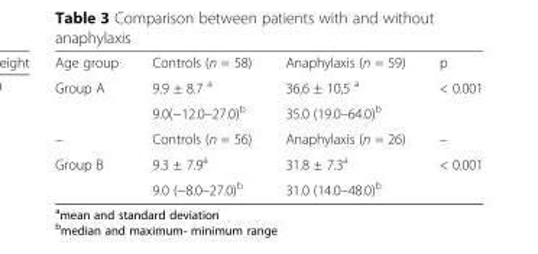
<table><tbody><tr><td>Age group</td><td>Controls (n = 58)</td><td>Anaphylaxis (n = 59)</td><td>p</td></tr><tr><td rowspan="2">Group A</td><td>9.9 ± 8.7 <sup>a</sup></td><td>36,6 ± 10,5 <sup>a</sup></td><td rowspan="2">&lt; 0.001</td></tr><tr><td>9.0(−12.0–27.0)<sup>b</sup></td><td>35.0 (19.0–64.0)<sup>b</sup></td></tr><tr><td>–</td><td>Controls (n = 56)</td><td>Anaphylaxis (n = 26)</td><td>–</td></tr><tr><td rowspan="2">Group B</td><td>9.3 ± 7.9<sup>a</sup></td><td>31.8 ± 7.3<sup>a</sup></td><td rowspan="2">&lt; 0.001</td></tr><tr><td>9.0 (−8.0–27.0)<sup>b</sup></td><td>31.0 (14.0–48.0)<sup>b</sup></td></tr></tbody></table>